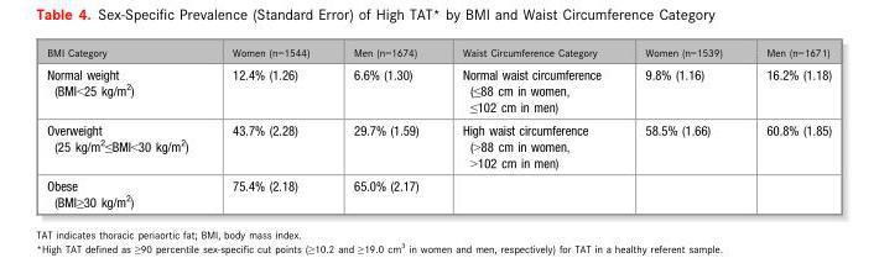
<table><thead><tr><td>BMI Category</td><td>Women (n=1544)</td><td>Men (n=1674)</td><td>Waist Circumference Category</td><td>Women (n=1539)</td><td>Men (n=1671)</td></tr></thead><tbody><tr><td>Normal weight (BMI&lt;25 kg/m<sup>2</sup>)</td><td>12.4% (1.26)</td><td>6.6% (1.30)</td><td>Normal waist circumference (≤88 cm in women, ≤102 cm in men)</td><td>9.8% (1.16)</td><td>16.2% (1.18)</td></tr><tr><td>Overweight (25 kg/m<sup>2</sup>≤BMI&lt;30 kg/m<sup>2</sup>)</td><td>43.7% (2.28)</td><td>29.7% (1.59)</td><td>High waist circumference (&gt;88 cm in women, &gt;102 cm in men)</td><td>58.5% (1.66)</td><td>60.8% (1.85)</td></tr><tr><td>Obese (BMI≥30 kg/m<sup>2</sup>)</td><td>75.4% (2.18)</td><td>65.0% (2.17)</td><td></td><td></td><td></td></tr></tbody></table>